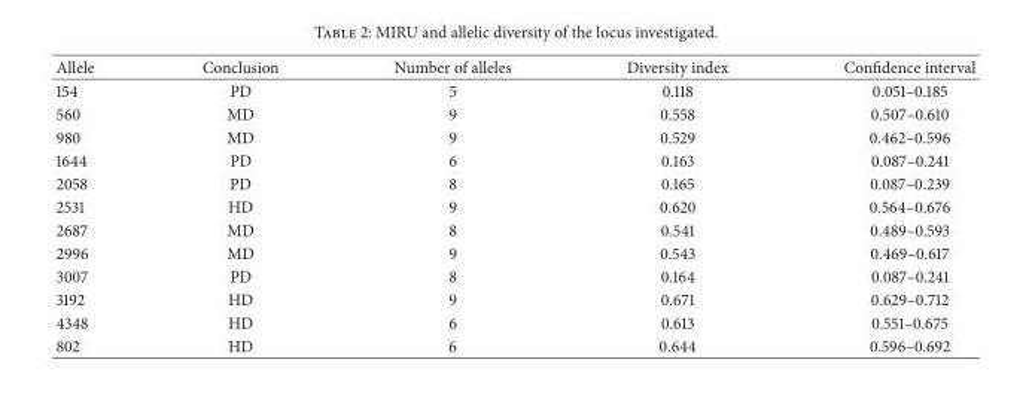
<table><thead><tr><td>Allele</td><td>Conclusion</td><td>Number of alleles</td><td>Diversity index</td><td>Confidence interval</td></tr></thead><tbody><tr><td>154</td><td>PD</td><td>5</td><td>0.118</td><td>0.051–0.185</td></tr><tr><td>560</td><td>MD</td><td>9</td><td>0.558</td><td>0.507–0.610</td></tr><tr><td>980</td><td>MD</td><td>9</td><td>0.529</td><td>0.462–0.596</td></tr><tr><td>1644</td><td>PD</td><td>6</td><td>0.163</td><td>0.087–0.241</td></tr><tr><td>2058</td><td>PD</td><td>8</td><td>0.165</td><td>0.087–0.239</td></tr><tr><td>2531</td><td>HD</td><td>9</td><td>0.620</td><td>0.564–0.676</td></tr><tr><td>2687</td><td>MD</td><td>8</td><td>0.541</td><td>0.489–0.593</td></tr><tr><td>2996</td><td>MD</td><td>9</td><td>0.543</td><td>0.469–0.617</td></tr><tr><td>3007</td><td>PD</td><td>8</td><td>0.164</td><td>0.087–0.241</td></tr><tr><td>3192</td><td>HD</td><td>9</td><td>0.671</td><td>0.629–0.712</td></tr><tr><td>4348</td><td>HD</td><td>6</td><td>0.613</td><td>0.551–0.675</td></tr><tr><td>802</td><td>HD</td><td>6</td><td>0.644</td><td>0.596–0.692</td></tr></tbody></table>